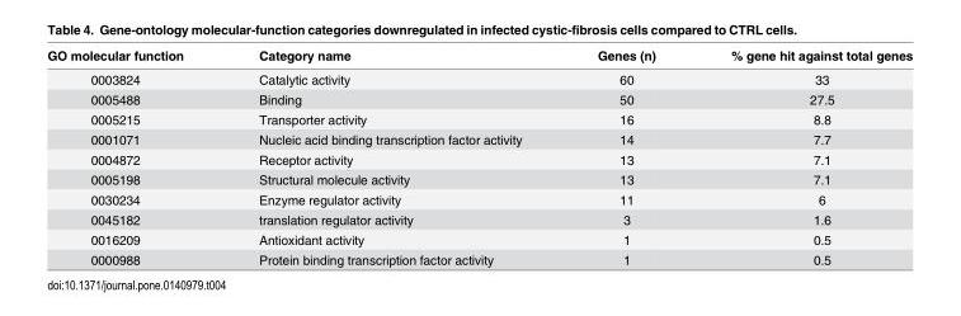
<table><thead><tr><td>GO molecular function</td><td>Category name</td><td>Genes (n)</td><td>% gene hit against total genes</td></tr></thead><tbody><tr><td>0003824</td><td>Catalytic activity</td><td>60</td><td>33</td></tr><tr><td>0005488</td><td>Binding</td><td>50</td><td>27.5</td></tr><tr><td>0005215</td><td>Transporter activity</td><td>16</td><td>8.8</td></tr><tr><td>0001071</td><td>Nucleic acid binding transcription factor activity</td><td>14</td><td>7.7</td></tr><tr><td>0004872</td><td>Receptor activity</td><td>13</td><td>7.1</td></tr><tr><td>0005198</td><td>Structural molecule activity</td><td>13</td><td>7.1</td></tr><tr><td>0030234</td><td>Enzyme regulator activity</td><td>11</td><td>6</td></tr><tr><td>0045182</td><td>translation regulator activity</td><td>3</td><td>1.6</td></tr><tr><td>0016209</td><td>Antioxidant activity</td><td>1</td><td>0.5</td></tr><tr><td>0000988</td><td>Protein binding transcription factor activity</td><td>1</td><td>0.5</td></tr></tbody></table>